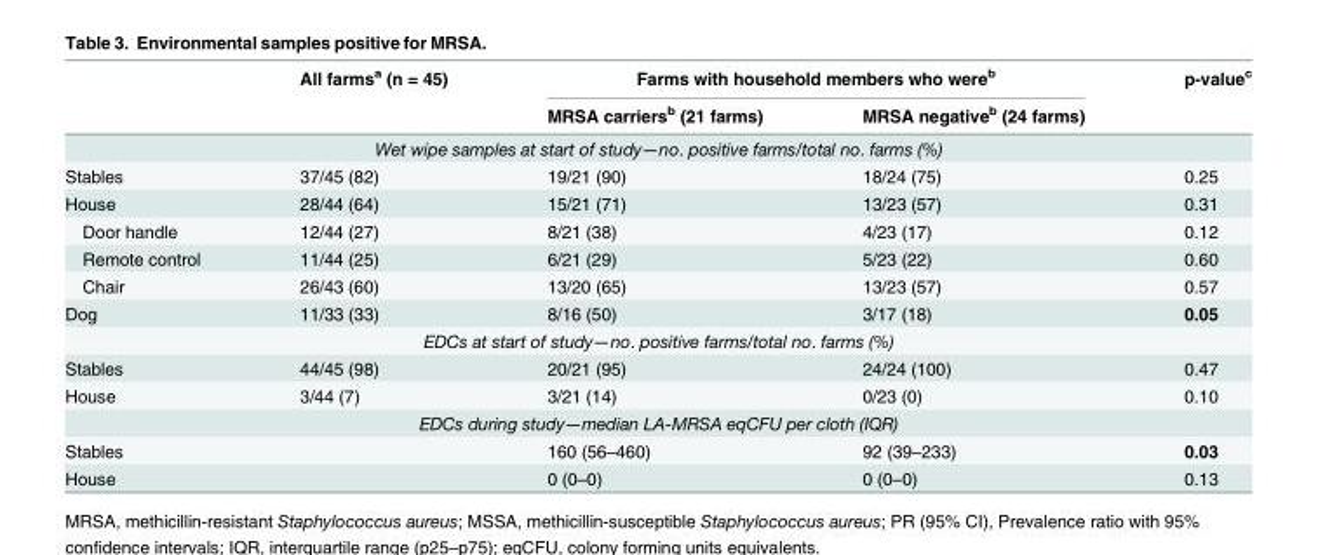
<table><thead><tr><td rowspan="2"></td><td rowspan="2">All farms<sup>a</sup> (n = 45)</td><td colspan="2">Farms with household members who were<sup>b</sup></td><td rowspan="2">p-value<sup>c</sup></td></tr><tr><td>MRSA carriers<sup>b</sup> (21 farms)</td><td>MRSA negative<sup>b</sup> (24 farms)</td></tr></thead><tbody><tr><td colspan="5">Wet wipe samples at start of study—no. positive farms/total no. farms (%)</td></tr><tr><td>Stables</td><td>37/45 (82)</td><td>19/21 (90)</td><td>18/24 (75)</td><td>0.25</td></tr><tr><td>House</td><td>28/44 (64)</td><td>15/21 (71)</td><td>13/23 (57)</td><td>0.31</td></tr><tr><td>Door handle</td><td>12/44 (27)</td><td>8/21 (38)</td><td>4/23 (17)</td><td>0.12</td></tr><tr><td>Remote control</td><td>11/44 (25)</td><td>6/21 (29)</td><td>5/23 (22)</td><td>0.60</td></tr><tr><td>Chair</td><td>26/43 (60)</td><td>13/20 (65)</td><td>13/23 (57)</td><td>0.57</td></tr><tr><td>Dog</td><td>11/33 (33)</td><td>8/16 (50)</td><td>3/17 (18)</td><td>0.05</td></tr><tr><td colspan="5">EDCs at start of study—no. positive farms/total no. farms (%)</td></tr><tr><td>Stables</td><td>44/45 (98)</td><td>20/21 (95)</td><td>24/24 (100)</td><td>0.47</td></tr><tr><td>House</td><td>3/44 (7)</td><td>3/21 (14)</td><td>0/23 (0)</td><td>0.10</td></tr><tr><td colspan="5">EDCs during study—median LA-MRSA eqCFU per cloth (IQR)</td></tr><tr><td>Stables</td><td></td><td>160 (56–460)</td><td>92 (39–233)</td><td>0.03</td></tr><tr><td>House</td><td></td><td>0 (0–0)</td><td>0 (0–0)</td><td>0.13</td></tr></tbody></table>